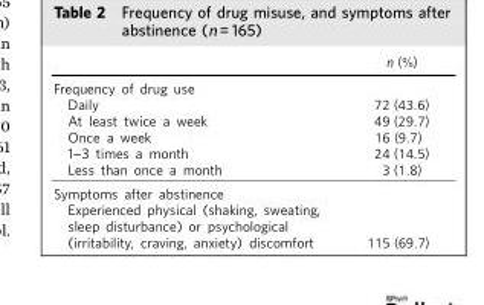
<table><thead><tr><td></td><td>n (%)</td></tr></thead><tbody><tr><td colspan="2">Frequency of drug use</td></tr><tr><td>Daily</td><td>72 (43.6)</td></tr><tr><td>At least twice a week</td><td>49 (29.7)</td></tr><tr><td>Once a week</td><td>16 (9.7)</td></tr><tr><td>1-3 times a month</td><td>24 (14.5)</td></tr><tr><td>Less than once a month</td><td>3 (1.8)</td></tr><tr><td colspan="2">Symptoms after abstinence</td></tr><tr><td>Experienced physical (shaking, sweating, sleep disturbance) or psychological (irritability, craving, anxiety) discomfort</td><td>115 (69.7)</td></tr></tbody></table>